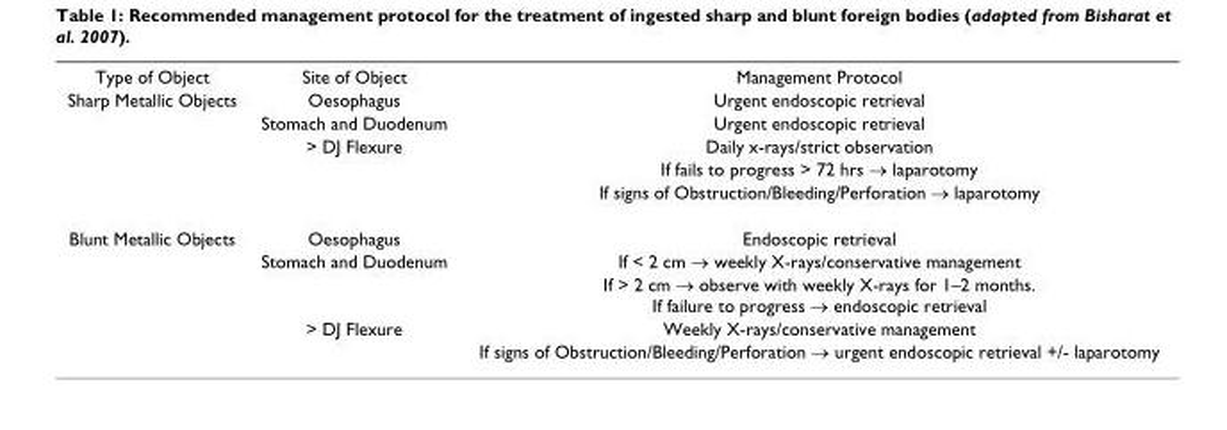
<table><tbody><tr><td>Type of Object</td><td>Site of Object</td><td>Management Protocol</td></tr><tr><td rowspan="5">Sharp Metallic Objects</td><td>Oesophagus</td><td>Urgent endoscopic retrieval</td></tr><tr><td>Stomach and Duodenum</td><td>Urgent endoscopic retrieval</td></tr><tr><td>&gt; DJ Flexure</td><td>Daily x-rays/strict observation</td></tr><tr><td></td><td>If fails to progress &gt; 72 hrs → laparotomy</td></tr><tr><td></td><td>If signs of Obstruction/Bleeding/Perforation → laparotomy</td></tr><tr><td rowspan="5">Blunt Metallic Objects</td><td>Oesophagus</td><td>Endoscopic retrieval</td></tr><tr><td>Stomach and Duodenum</td><td>If &lt; 2 cm → weekly X-rays/conservative management</td></tr><tr><td></td><td>If &gt; 2 cm → observe with weekly X-rays for 1–2 months. If failure to progress → endoscopic retrieval</td></tr><tr><td>&gt; DJ Flexure</td><td>Weekly X-rays/conservative management</td></tr><tr><td></td><td>If signs of Obstruction/Bleeding/Perforation → urgent endoscopic retrieval +/- laparotomy</td></tr></tbody></table>